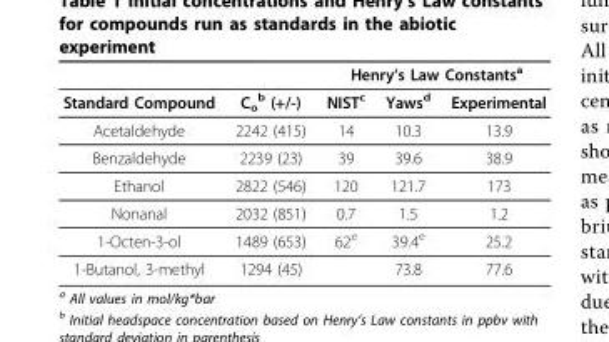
<table><thead><tr><td rowspan="2">Standard Compound</td><td rowspan="2">C<sub>o</sub> <sup>b</sup> (+/-)</td><td colspan="3">Henry’s Law Constants<sup>a</sup></td></tr><tr><td>NIST<sup>c</sup></td><td>Yaws<sup>d</sup></td><td>Experimental</td></tr></thead><tbody><tr><td>Acetaldehyde</td><td>2242 (415)</td><td>14</td><td>10.3</td><td>13.9</td></tr><tr><td>Benzaldehyde</td><td>2239 (23)</td><td>39</td><td>39.6</td><td>38.9</td></tr><tr><td>Ethanol</td><td>2822 (546)</td><td>120</td><td>121.7</td><td>173</td></tr><tr><td>Nonanal</td><td>2032 (851)</td><td>0.7</td><td>1.5</td><td>1.2</td></tr><tr><td>1-Octen-3-ol</td><td>1489 (653)</td><td>62<sup>e</sup></td><td>39.4<sup>e</sup></td><td>25.2</td></tr><tr><td>1-Butanol, 3-methyl</td><td>1294 (45)</td><td></td><td>73.8</td><td>77.6</td></tr></tbody></table>